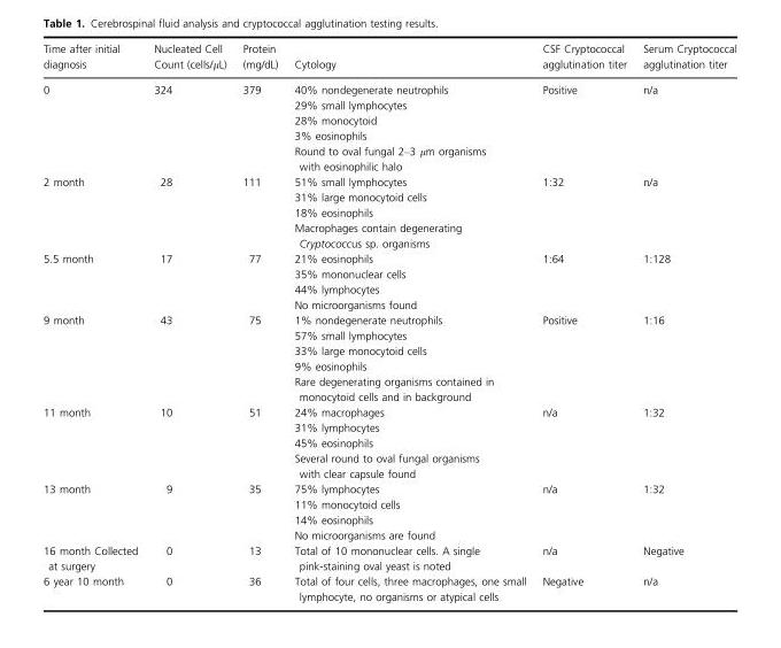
<table><thead><tr><td>Time after initial diagnosis</td><td>Nucleated Cell Count (cells/μL)</td><td>Protein (mg/dL)</td><td>Cytology</td><td>CSF Cryptococcal agglutination titer</td><td>Serum Cryptococcal agglutination titer</td></tr></thead><tbody><tr><td rowspan="5">0</td><td rowspan="5">324</td><td rowspan="5">379</td><td>40% nondegenerate neutrophils</td><td rowspan="5">Positive</td><td rowspan="5">n/a</td></tr><tr><td>29% small lymphocytes</td></tr><tr><td>28% monocytoid</td></tr><tr><td>3% eosinophils</td></tr><tr><td>Round to oval fungal 2–3 μm organisms with eosinophilic halo</td></tr><tr><td rowspan="4">2 month</td><td rowspan="4">28</td><td rowspan="4">111</td><td>51% small lymphocytes</td><td rowspan="4">1:32</td><td rowspan="4">n/a</td></tr><tr><td>31% large monocytoid cells</td></tr><tr><td>18% eosinophils</td></tr><tr><td>Macrophages contain degenerating Cryptococcus sp. organisms</td></tr><tr><td rowspan="4">5.5 month</td><td rowspan="4">17</td><td rowspan="4">77</td><td>21% eosinophils</td><td rowspan="4">1:64</td><td rowspan="4">1:128</td></tr><tr><td>35% mononuclear cells</td></tr><tr><td>44% lymphocytes</td></tr><tr><td>No microorganisms found</td></tr><tr><td rowspan="5">9 month</td><td rowspan="5">43</td><td rowspan="5">75</td><td>1% nondegenerate neutrophils</td><td rowspan="5">Positive</td><td rowspan="5">1:16</td></tr><tr><td>57% small lymphocytes</td></tr><tr><td>33% large monocytoid cells</td></tr><tr><td>9% eosinophils</td></tr><tr><td>Rare degenerating organisms contained in monocytoid cells and in background</td></tr><tr><td rowspan="4">11 month</td><td rowspan="4">10</td><td rowspan="4">51</td><td>24% macrophages</td><td rowspan="4">n/a</td><td rowspan="4">1:32</td></tr><tr><td>31% lymphocytes</td></tr><tr><td>45% eosinophils</td></tr><tr><td>Several round to oval fungal organisms with clear capsule found</td></tr><tr><td rowspan="4">13 month</td><td rowspan="4">9</td><td rowspan="4">35</td><td>75% lymphocytes</td><td rowspan="4">n/a</td><td rowspan="4">1:32</td></tr><tr><td>11% monocytoid cells</td></tr><tr><td>14% eosinophils</td></tr><tr><td>No microorganisms are found</td></tr><tr><td>16 month Collected at surgery</td><td>0</td><td>13</td><td>Total of 10 mononuclear cells. A single pink-staining oval yeast is noted</td><td>n/a</td><td>Negative</td></tr><tr><td>6 year 10 month</td><td>0</td><td>36</td><td>Total of four cells, three macrophages, one small lymphocyte, no organisms or atypical cells</td><td>Negative</td><td>n/a</td></tr></tbody></table>